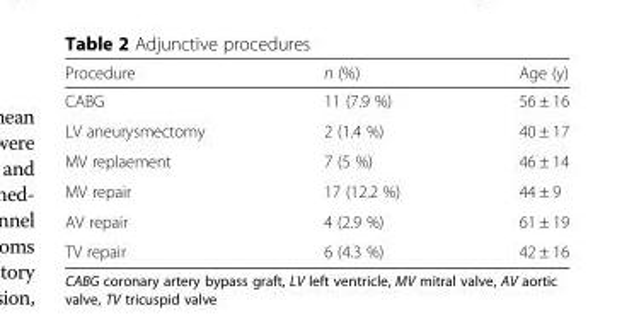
<table><thead><tr><td>Procedure</td><td>n (%)</td><td>Age (y)</td></tr></thead><tbody><tr><td>CABG</td><td>11 (7.9 %)</td><td>56 ± 16</td></tr><tr><td>LV aneurysmectomy</td><td>2 (1.4 %)</td><td>40 ± 17</td></tr><tr><td>MV replaement</td><td>7 (5 %)</td><td>46 ± 14</td></tr><tr><td>MV repair</td><td>17 (12.2 %)</td><td>44 ± 9</td></tr><tr><td>AV repair</td><td>4 (2.9 %)</td><td>61 ± 19</td></tr><tr><td>TV repair</td><td>6 (4.3 %)</td><td>42 ± 16</td></tr></tbody></table>